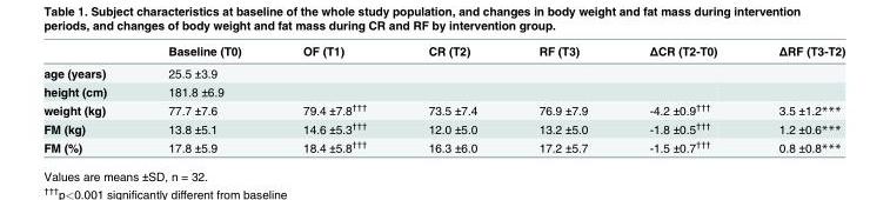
<table><thead><tr><td></td><td>Baseline (T0)</td><td>OF (T1)</td><td>CR (T2)</td><td>RF (T3)</td><td>ΔCR (T2-T0)</td><td>ΔRF (T3-T2)</td></tr></thead><tbody><tr><td>age (years)</td><td>25.5 ±3.9</td><td></td><td></td><td></td><td></td><td></td></tr><tr><td>height (cm)</td><td>181.8 ±6.9</td><td></td><td></td><td></td><td></td><td></td></tr><tr><td>weight (kg)</td><td>77.7 ±7.6</td><td>79.4 ±7.8<sup>†††</sup></td><td>73.5 ±7.4</td><td>76.9 ±7.9</td><td>-4.2 ±0.9<sup>†††</sup></td><td>3.5 ±1.2***</td></tr><tr><td>FM (kg)</td><td>13.8 ±5.1</td><td>14.6 ±5.3<sup>†††</sup></td><td>12.0 ±5.0</td><td>13.2 ±5.0</td><td>-1.8 ±0.5<sup>†††</sup></td><td>1.2 ±0.6***</td></tr><tr><td>FM (%)</td><td>17.8 ±5.9</td><td>18.4 ±5.8<sup>†††</sup></td><td>16.3 ±6.0</td><td>17.2 ±5.7</td><td>-1.5 ±0.7<sup>†††</sup></td><td>0.8 ±0.8***</td></tr></tbody></table>